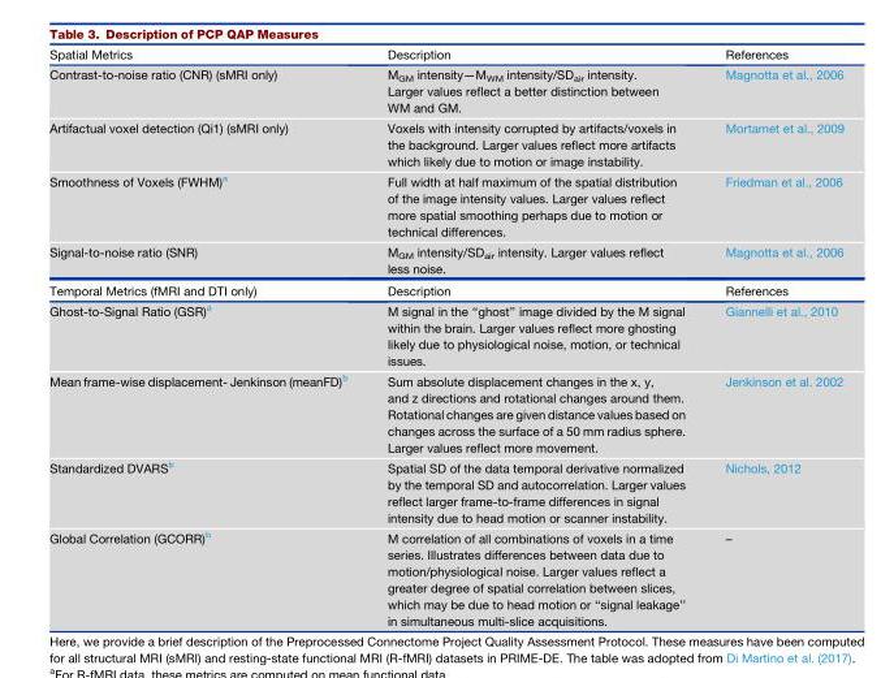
<table><thead><tr><td>Spatial Metrics</td><td>Description</td><td>References</td></tr></thead><tbody><tr><td>Contrast-to-noise ratio (CNR) (sMRI only)</td><td>M<sub>GM</sub> intensity—M<sub>WM</sub> intensity/SD<sub>air</sub> intensity. Larger values reflect a better distinction between WM and GM.</td><td>Magnotta et al., 2006</td></tr><tr><td>Artifactual voxel detection (Qi1) (sMRI only)</td><td>Voxels with intensity corrupted by artifacts/voxels in the background. Larger values reflect more artifacts which likely due to motion or image instability.</td><td>Mortamet et al., 2009</td></tr><tr><td>Smoothness of Voxels (FWHM)<sup>a</sup></td><td>Full width at half maximum of the spatial distribution of the image intensity values. Larger values reflect more spatial smoothing perhaps due to motion or technical differences.</td><td>Friedman et al., 2006</td></tr><tr><td>Signal-to-noise ratio (SNR)</td><td>M<sub>GM</sub> intensity/SD<sub>air</sub> intensity. Larger values reflect less noise.</td><td>Magnotta et al., 2006</td></tr><tr><td>Temporal Metrics (fMRI and DTI only)</td><td>Description</td><td>References</td></tr><tr><td>Ghost-to-Signal Ratio (GSR)<sup>a</sup></td><td>M signal in the ‘‘ghost’’ image divided by the M signal within the brain. Larger values reflect more ghosting likely due to physiological noise, motion, or technical issues.</td><td>Giannelli et al., 2010</td></tr><tr><td>Mean frame-wise displacement- Jenkinson (meanFD)<sup>b</sup></td><td>Sum absolute displacement changes in the x, y, and z directions and rotational changes around them. Rotational changes are given distance values based on changes across the surface of a 50 mm radius sphere. Larger values reflect more movement.</td><td>Jenkinson et al. 2002</td></tr><tr><td>Standardized DVARS<sup>b</sup></td><td>Spatial SD of the data temporal derivative normalized by the temporal SD and autocorrelation. Larger values reflect larger frame-to-frame differences in signal intensity due to head motion or scanner instability.</td><td>Nichols, 2012</td></tr><tr><td>Global Correlation (GCORR)<sup>b</sup></td><td>M correlation of all combinations of voxels in a time series. Illustrates differences between data due to motion/physiological noise. Larger values reflect a greater degree of spatial correlation between slices, which may be due to head motion or ‘‘signal leakage’’ in simultaneous multi-slice acquisitions.</td><td>–</td></tr></tbody></table>